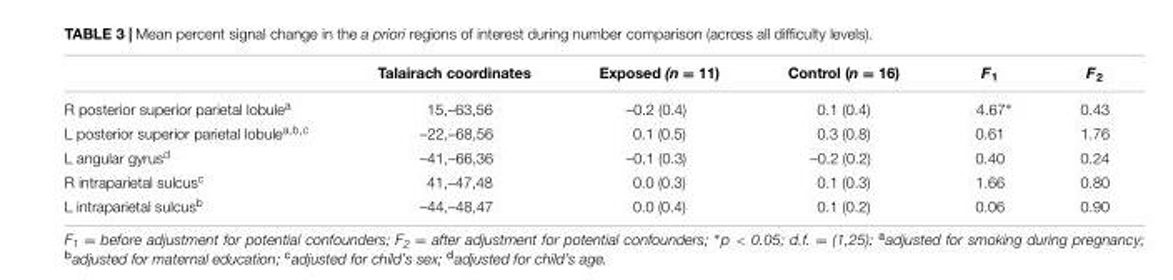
<table><thead><tr><td></td><td>Talairach coordinates</td><td>Exposed (n = 11)</td><td>Control (n = 16)</td><td>F<sub>1</sub></td><td>F<sub>2</sub></td></tr></thead><tbody><tr><td>R posterior superior parietal lobule<sup>a</sup></td><td>15,–63,56</td><td>–0.2 (0.4)</td><td>0.1 (0.4)</td><td>4.67∗</td><td>0.43</td></tr><tr><td>L posterior superior parietal lobule<sup>a,b,c</sup></td><td>–22,–68,56</td><td>0.1 (0.5)</td><td>0.3 (0.8)</td><td>0.61</td><td>1.76</td></tr><tr><td>L angular gyrus<sup>d</sup></td><td>–41,–66,36</td><td>–0.1 (0.3)</td><td>–0.2 (0.2)</td><td>0.40</td><td>0.24</td></tr><tr><td>R intraparietal sulcus<sup>c</sup></td><td>41,–47,48</td><td>0.0 (0.3)</td><td>0.1 (0.3)</td><td>1.66</td><td>0.80</td></tr><tr><td>L intraparietal sulcus<sup>b</sup></td><td>–44,–48,47</td><td>0.0 (0.4)</td><td>0.1 (0.2)</td><td>0.06</td><td>0.90</td></tr></tbody></table>